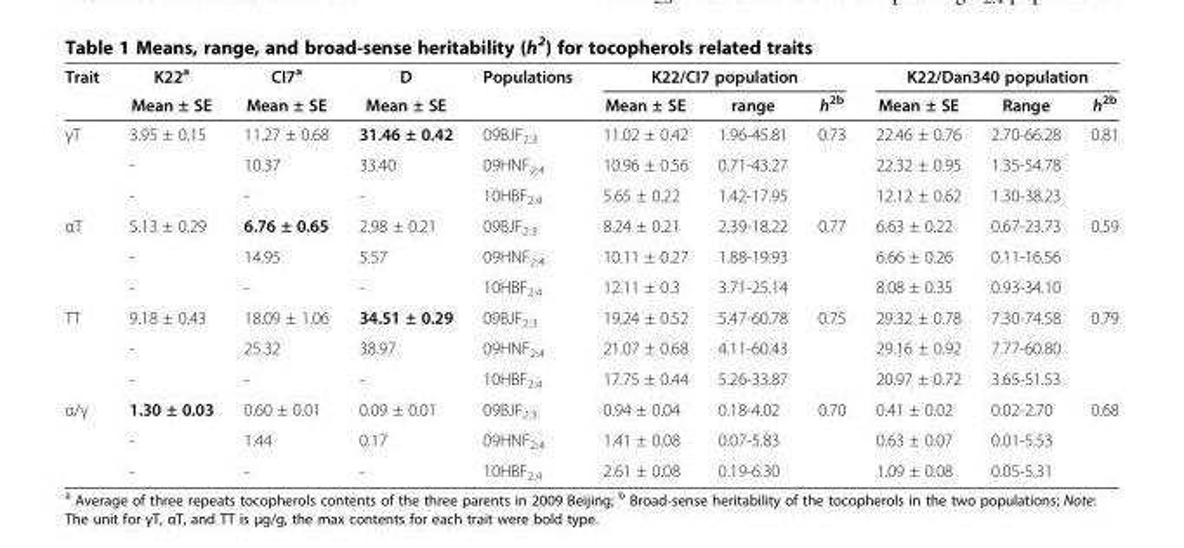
<table><thead><tr><td rowspan="2">Trait</td><td rowspan="2">K22<sup>a</sup> Mean ± SE</td><td rowspan="2">CI7<sup>a</sup> Mean ± SE</td><td rowspan="2">D Mean ± SE</td><td rowspan="2">Populations</td><td colspan="3">K22/CI7 population</td><td colspan="3">K22/Dan340 population</td></tr><tr><td>Mean ± SE</td><td>range</td><td>h<sup>2b</sup></td><td>Mean ± SE</td><td>Range</td><td>h<sup>2b</sup></td></tr></thead><tbody><tr><td rowspan="3">γT</td><td>3.95 ± 0.15</td><td>11.27 ± 0.68</td><td>31.46 ± 0.42</td><td>09BJF<sub>2:3</sub></td><td>11.02 ± 0.42</td><td>1.96-45.81</td><td>0.73</td><td>22.46 ± 0.76</td><td>2.70-66.28</td><td rowspan="3">0.81</td></tr><tr><td>-</td><td>10.37</td><td>33.40</td><td>09HNF<sub>2:4</sub></td><td>10.96 ± 0.56</td><td>0.71-43.27</td><td></td><td>22.32 ± 0.95</td><td>1.35-54.78</td></tr><tr><td>-</td><td>-</td><td>-</td><td>10HBF<sub>2:4</sub></td><td>5.65 ± 0.22</td><td>1.42-17.95</td><td></td><td>12.12 ± 0.62</td><td>1.30-38.23</td></tr><tr><td rowspan="3">αT</td><td>5.13 ± 0.29</td><td>6.76 ± 0.65</td><td>2.98 ± 0.21</td><td>09BJF<sub>2:3</sub></td><td>8.24 ± 0.21</td><td>2.39-18.22</td><td>0.77</td><td>6.63 ± 0.22</td><td>0.67-23.73</td><td rowspan="3">0.59</td></tr><tr><td>-</td><td>14.95</td><td>5.57</td><td>09HNF<sub>2:4</sub></td><td>10.11 ± 0.27</td><td>1.88-19.93</td><td></td><td>6.66 ± 0.26</td><td>0.11-16.56</td></tr><tr><td>-</td><td>-</td><td>-</td><td>10HBF<sub>2:4</sub></td><td>12.11 ± 0.3</td><td>3.71-25.14</td><td></td><td>8.08 ± 0.35</td><td>0.93-34.10</td></tr><tr><td rowspan="3">TT</td><td>9.18 ± 0.43</td><td>18.09 ± 1.06</td><td>34.51 ± 0.29</td><td>09BJF<sub>2:3</sub></td><td>19.24 ± 0.52</td><td>5.47-60.78</td><td>0.75</td><td>29.32 ± 0.78</td><td>7.30-74.58</td><td rowspan="3">0.79</td></tr><tr><td>-</td><td>25.32</td><td>38.97</td><td>09HNF<sub>2:4</sub></td><td>21.07 ± 0.68</td><td>4.11-60.43</td><td></td><td>29.16 ± 0.92</td><td>7.77-60.80</td></tr><tr><td>-</td><td>-</td><td>-</td><td>10HBF<sub>2:4</sub></td><td>17.75 ± 0.44</td><td>5.26-33.87</td><td></td><td>20.97 ± 0.72</td><td>3.65-51.53</td></tr><tr><td rowspan="3">α/γ</td><td>1.30 ± 0.03</td><td>0.60 ± 0.01</td><td>0.09 ± 0.01</td><td>09BJF<sub>2:3</sub></td><td>0.94 ± 0.04</td><td>0.18-4.02</td><td>0.70</td><td>0.41 ± 0.02</td><td>0.02-2.70</td><td rowspan="2">0.68</td></tr><tr><td>-</td><td>1.44</td><td>0.17</td><td>09HNF<sub>2:4</sub></td><td>1.41 ± 0.08</td><td>0.07-5.83</td><td></td><td>0.63 ± 0.07</td><td>0.01-5.53</td></tr><tr><td>-</td><td>-</td><td>-</td><td>10HBF<sub>2:4</sub></td><td>2.61 ± 0.08</td><td>0.19-6.30</td><td></td><td>1.09 ± 0.08</td><td>0.05-5.31</td><td></td></tr></tbody></table>